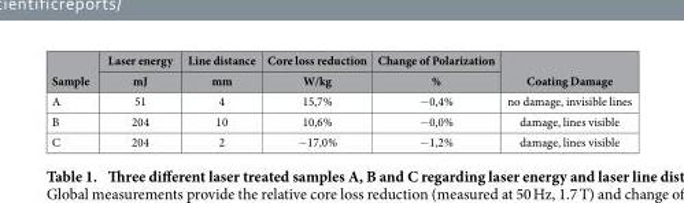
<table><thead><tr><td rowspan="2">Sample</td><td rowspan="2">Laser energy mJ</td><td rowspan="2">Line distance mm</td><td rowspan="2">Core loss reduction W/kg</td><td rowspan="2">Change of Polarization %</td><td rowspan="2">Coating Damage</td></tr><tr></tr></thead><tbody><tr><td>A</td><td>51</td><td>4</td><td>15,7%</td><td>− 0,4%</td><td>no damage, invisible lines</td></tr><tr><td>B</td><td>204</td><td>10</td><td>10,6%</td><td>− 0,0%</td><td>damage, lines visible</td></tr><tr><td>C</td><td>204</td><td>2</td><td>− 17,0%</td><td>− 1,2%</td><td>damage, lines visible</td></tr></tbody></table>